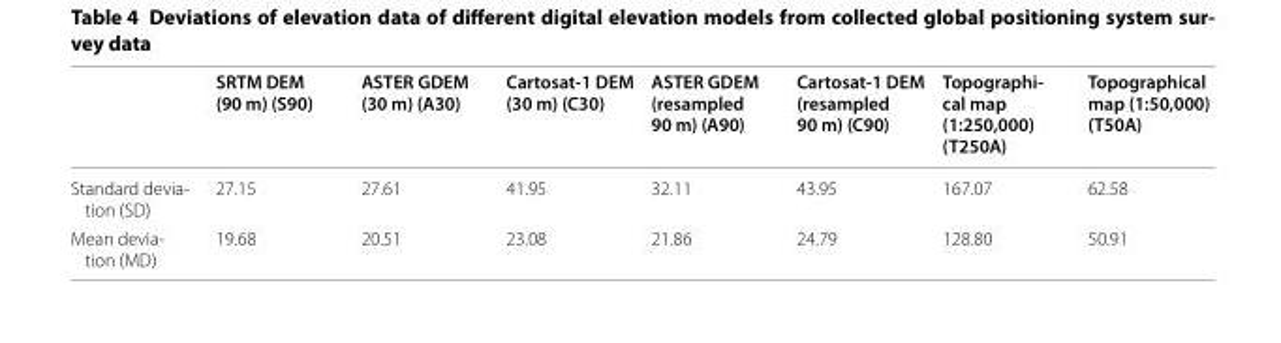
<table><thead><tr><td></td><td>SRTM DEM (90 m) (S90)</td><td>ASTER GDEM (30 m) (A30)</td><td>Cartosat-1 DEM (30 m) (C30)</td><td>ASTER GDEM (resampled 90 m) (A90)</td><td>Cartosat-1 DEM (resampled 90 m) (C90)</td><td>Topographi- cal map (1:250,000) (T250A)</td><td>Topographical map (1:50,000) (T50A)</td></tr></thead><tbody><tr><td>Standard devia- tion (SD)</td><td>27.15</td><td>27.61</td><td>41.95</td><td>32.11</td><td>43.95</td><td>167.07</td><td>62.58</td></tr><tr><td>Mean devia- tion (MD)</td><td>19.68</td><td>20.51</td><td>23.08</td><td>21.86</td><td>24.79</td><td>128.80</td><td>50.91</td></tr></tbody></table>